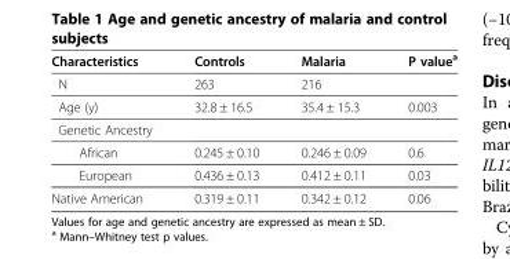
<table><thead><tr><td>Characteristics</td><td>Controls</td><td>Malaria</td><td>P value<sup>a</sup></td></tr></thead><tbody><tr><td>N</td><td>263</td><td>216</td><td></td></tr><tr><td>Age (y)</td><td>32.8 ± 16.5</td><td>35.4 ± 15.3</td><td>0.003</td></tr><tr><td colspan="4">Genetic Ancestry</td></tr><tr><td>African</td><td>0.245 ± 0.10</td><td>0.246 ± 0.09</td><td>0.6</td></tr><tr><td>European</td><td>0.436 ± 0.13</td><td>0.412 ± 0.11</td><td>0.03</td></tr><tr><td>Native American</td><td>0.319 ± 0.11</td><td>0.342 ± 0.12</td><td>0.06</td></tr></tbody></table>